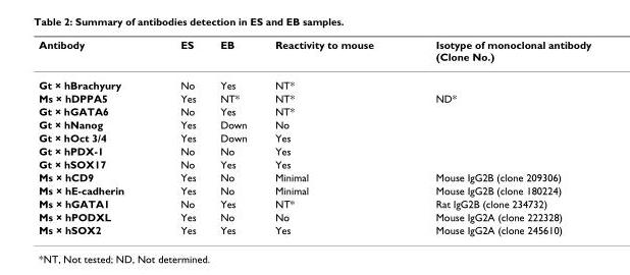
<table><thead><tr><td>Antibody</td><td>ES</td><td>EB</td><td>Reactivity to mouse</td><td>Isotype of monoclonal antibody (Clone No.)</td></tr></thead><tbody><tr><td>Gt × hBrachyury</td><td>No</td><td>Yes</td><td>NT*</td><td></td></tr><tr><td>Ms × hDPPA5</td><td>Yes</td><td>NT*</td><td>NT*</td><td>ND*</td></tr><tr><td>Gt × hGATA6</td><td>No</td><td>Yes</td><td>NT*</td><td></td></tr><tr><td>Gt × hNanog</td><td>Yes</td><td>Down</td><td>No</td><td></td></tr><tr><td>Gt × hOct 3/4</td><td>Yes</td><td>Down</td><td>Yes</td><td></td></tr><tr><td>Gt × hPDX-1</td><td>No</td><td>No</td><td>Yes</td><td></td></tr><tr><td>Gt × hSOX17</td><td>No</td><td>Yes</td><td>Yes</td><td></td></tr><tr><td>Ms × hCD9</td><td>Yes</td><td>No</td><td>Minimal</td><td>Mouse IgG2B (clone 209306)</td></tr><tr><td>Ms × hE-cadherin</td><td>Yes</td><td>No</td><td>Minimal</td><td>Mouse IgG2B (clone 180224)</td></tr><tr><td>Ms × hGATA1</td><td>No</td><td>Yes</td><td>NT*</td><td>Rat IgG2B (clone 234732)</td></tr><tr><td>Ms × hPODXL</td><td>Yes</td><td>No</td><td>No</td><td>Mouse IgG2A (clone 222328)</td></tr><tr><td>Ms × hSOX2</td><td>Yes</td><td>Yes</td><td>Yes</td><td>Mouse IgG2A (clone 245610)</td></tr></tbody></table>